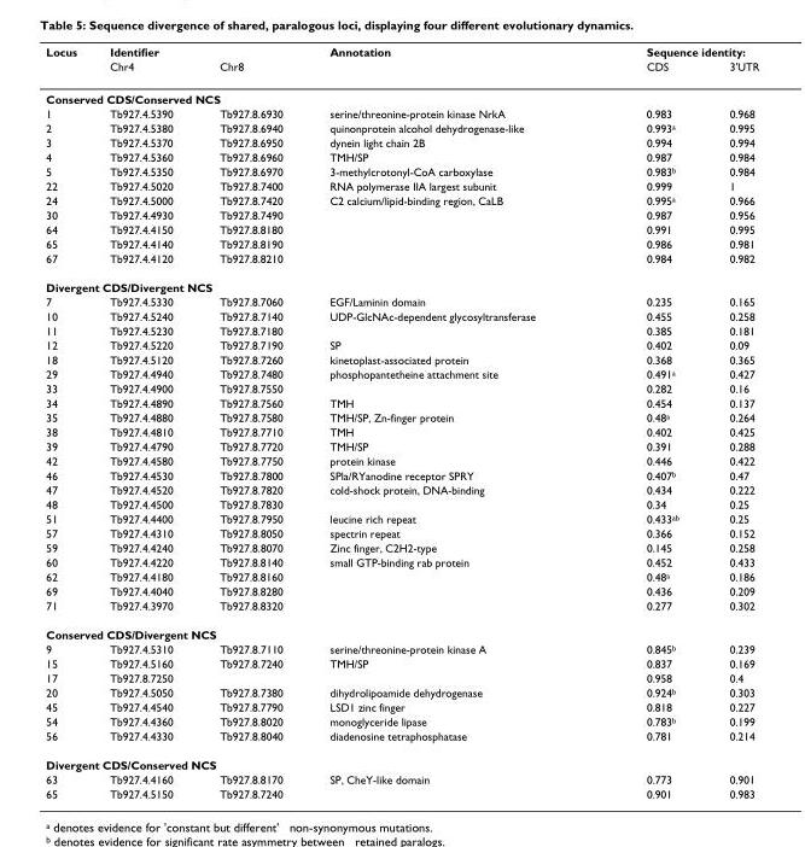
<table><thead><tr><td rowspan="2">Locus</td><td rowspan="2">Identifier Chr4</td><td rowspan="2">Chr8</td><td rowspan="2">Annotation</td><td colspan="2">Sequence identity:</td></tr><tr><td>CDS</td><td>3&#x27;UTR</td></tr></thead><tbody><tr><td colspan="6">Conserved CDS/Conserved NCS</td></tr><tr><td>1</td><td>Tb927.4.5390</td><td>Tb927.8.6930</td><td>serine/threonine-protein kinase NrkA</td><td>0.983</td><td>0.968</td></tr><tr><td>2</td><td>Tb927.4.5380</td><td>Tb927.8.6940</td><td>quinonprotein alcohol dehydrogenase-like</td><td>0.993<sup>a</sup></td><td>0.995</td></tr><tr><td>3</td><td>Tb927.4.5370</td><td>Tb927.8.6950</td><td>dynein light chain 2B</td><td>0.994</td><td>0.994</td></tr><tr><td>4</td><td>Tb927.4.5360</td><td>Tb927.8.6960</td><td>TMH/SP</td><td>0.987</td><td>0.984</td></tr><tr><td>5</td><td>Tb927.4.5350</td><td>Tb927.8.6970</td><td>3-methylcrotonyl-CoA carboxylase</td><td>0.983<sup>b</sup></td><td>0.984</td></tr><tr><td>22</td><td>Tb927.4.5020</td><td>Tb927.8.7400</td><td>RNA polymerase IIA largest subunit</td><td>0.999</td><td>1</td></tr><tr><td>24</td><td>Tb927.4.5000</td><td>Tb927.8.7420</td><td>C2 calcium/lipid-binding region, CaLB</td><td>0.995<sup>a</sup></td><td>0.966</td></tr><tr><td>30</td><td>Tb927.4.4930</td><td>Tb927.8.7490</td><td></td><td>0.987</td><td>0.956</td></tr><tr><td>64</td><td>Tb927.4.4150</td><td>Tb927.8.8180</td><td></td><td>0.991</td><td>0.995</td></tr><tr><td>65</td><td>Tb927.4.4140</td><td>Tb927.8.8190</td><td></td><td>0.986</td><td>0.981</td></tr><tr><td>67</td><td>Tb927.4.4120</td><td>Tb927.8.8210</td><td></td><td>0.984</td><td>0.982</td></tr><tr><td colspan="6">Divergent CDS/Divergent NCS</td></tr><tr><td>7</td><td>Tb927.4.5330</td><td>Tb927.8.7060</td><td>EGF/Laminin domain</td><td>0.235</td><td>0.165</td></tr><tr><td>10</td><td>Tb927.4.5240</td><td>Tb927.8.7140</td><td>UDP-GlcNAc-dependent glycosyltransferase</td><td>0.455</td><td>0.258</td></tr><tr><td>11</td><td>Tb927.4.5230</td><td>Tb927.8.7180</td><td></td><td>0.385</td><td>0.181</td></tr><tr><td>12</td><td>Tb927.4.5220</td><td>Tb927.8.7190</td><td>SP</td><td>0.402</td><td>0.09</td></tr><tr><td>18</td><td>Tb927.4.5120</td><td>Tb927.8.7260</td><td>kinetoplast-associated protein</td><td>0.368</td><td>0.365</td></tr><tr><td>29</td><td>Tb927.4.4940</td><td>Tb927.8.7480</td><td>phosphopantetheine attachment site</td><td>0.491<sup>a</sup></td><td>0.427</td></tr><tr><td>33</td><td>Tb927.4.4900</td><td>Tb927.8.7550</td><td></td><td>0.282</td><td>0.16</td></tr><tr><td>34</td><td>Tb927.4.4890</td><td>Tb927.8.7560</td><td>TMH</td><td>0.454</td><td>0.137</td></tr><tr><td>35</td><td>Tb927.4.4880</td><td>Tb927.8.7580</td><td>TMH/SP, Zn-finger protein</td><td>0.48<sup>a</sup></td><td>0.264</td></tr><tr><td>38</td><td>Tb927.4.4810</td><td>Tb927.8.7710</td><td>TMH</td><td>0.402</td><td>0.425</td></tr><tr><td>39</td><td>Tb927.4.4790</td><td>Tb927.8.7720</td><td>TMH/SP</td><td>0.391</td><td>0.288</td></tr><tr><td>42</td><td>Tb927.4.4580</td><td>Tb927.8.7750</td><td>protein kinase</td><td>0.446</td><td>0.422</td></tr><tr><td>46</td><td>Tb927.4.4530</td><td>Tb927.8.7800</td><td>SPla/RYanodine receptor SPRY</td><td>0.407<sup>b</sup></td><td>0.47</td></tr><tr><td>47</td><td>Tb927.4.4520</td><td>Tb927.8.7820</td><td>cold-shock protein, DNA-binding</td><td>0.434</td><td>0.222</td></tr><tr><td>48</td><td>Tb927.4.4500</td><td>Tb927.8.7830</td><td></td><td>0.34</td><td>0.25</td></tr><tr><td>51</td><td>Tb927.4.4400</td><td>Tb927.8.7950</td><td>leucine rich repeat</td><td>0.433<sup>ab</sup></td><td>0.25</td></tr><tr><td>57</td><td>Tb927.4.4310</td><td>Tb927.8.8050</td><td>spectrin repeat</td><td>0.366</td><td>0.152</td></tr><tr><td>59</td><td>Tb927.4.4240</td><td>Tb927.8.8070</td><td>Zinc finger, C2H2-type</td><td>0.145</td><td>0.258</td></tr><tr><td>60</td><td>Tb927.4.4220</td><td>Tb927.8.8140</td><td>small GTP-binding rab protein</td><td>0.452</td><td>0.433</td></tr><tr><td>62</td><td>Tb927.4.4180</td><td>Tb927.8.8160</td><td></td><td>0.48<sup>a</sup></td><td>0.186</td></tr><tr><td>69</td><td>Tb927.4.4040</td><td>Tb927.8.8280</td><td></td><td>0.436</td><td>0.209</td></tr><tr><td>71</td><td>Tb927.4.3970</td><td>Tb927.8.8320</td><td></td><td>0.277</td><td>0.302</td></tr><tr><td colspan="6">Conserved CDS/Divergent NCS</td></tr><tr><td>9</td><td>Tb927.4.5310</td><td>Tb927.8.7110</td><td>serine/threonine-protein kinase A</td><td>0.845<sup>b</sup></td><td>0.239</td></tr><tr><td>15</td><td>Tb927.4.5160</td><td>Tb927.8.7240</td><td>TMH/SP</td><td>0.837</td><td>0.169</td></tr><tr><td>17</td><td>Tb927.8.7250</td><td></td><td></td><td>0.958</td><td>0.4</td></tr><tr><td>20</td><td>Tb927.4.5050</td><td>Tb927.8.7380</td><td>dihydrolipoamide dehydrogenase</td><td>0.924<sup>b</sup></td><td>0.303</td></tr><tr><td>45</td><td>Tb927.4.4540</td><td>Tb927.8.7790</td><td>LSD1 zinc finger</td><td>0.818</td><td>0.227</td></tr><tr><td>54</td><td>Tb927.4.4360</td><td>Tb927.8.8020</td><td>monoglyceride lipase</td><td>0.783<sup>b</sup></td><td>0.199</td></tr><tr><td>56</td><td>Tb927.4.4330</td><td>Tb927.8.8040</td><td>diadenosine tetraphosphatase</td><td>0.781</td><td>0.214</td></tr><tr><td colspan="6">Divergent CDS/Conserved NCS</td></tr><tr><td>63</td><td>Tb927.4.4160</td><td>Tb927.8.8170</td><td>SP, CheY-like domain</td><td>0.773</td><td>0.901</td></tr><tr><td>65</td><td>Tb927.4.5150</td><td>Tb927.8.7240</td><td></td><td>0.901</td><td>0.983</td></tr></tbody></table>